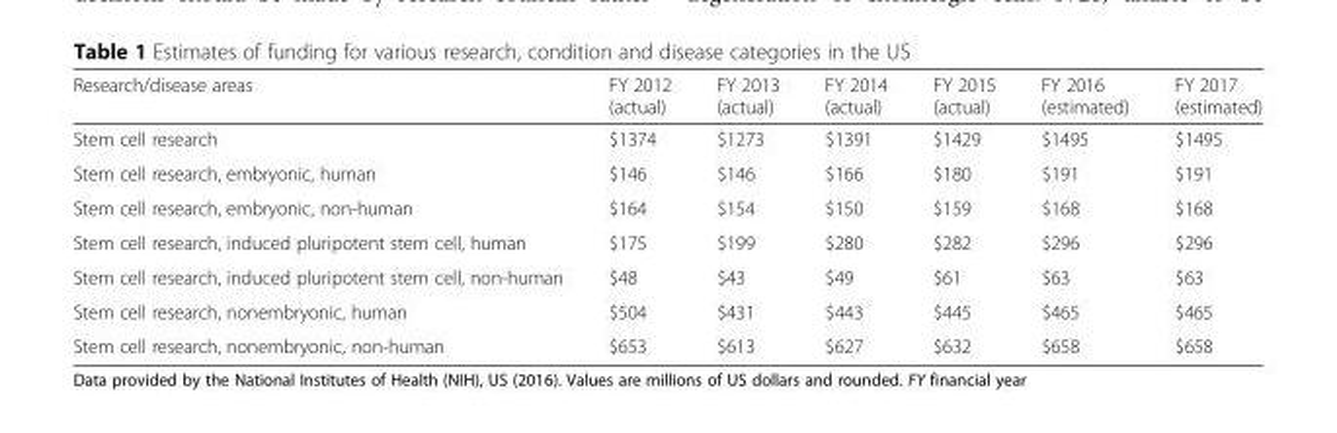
<table><thead><tr><td>Research/disease areas</td><td>FY 2012 (actual)</td><td>FY 2013 (actual)</td><td>FY 2014 (actual)</td><td>FY 2015 (actual)</td><td>FY 2016 (estimated)</td><td>FY 2017 (estimated)</td></tr></thead><tbody><tr><td>Stem cell research</td><td>$1374</td><td>$1273</td><td>$1391</td><td>$1429</td><td>$1495</td><td>$1495</td></tr><tr><td>Stem cell research, embryonic, human</td><td>$146</td><td>$146</td><td>$166</td><td>$180</td><td>$191</td><td>$191</td></tr><tr><td>Stem cell research, embryonic, non-human</td><td>$164</td><td>$154</td><td>$150</td><td>$159</td><td>$168</td><td>$168</td></tr><tr><td>Stem cell research, induced pluripotent stem cell, human</td><td>$175</td><td>$199</td><td>$280</td><td>$282</td><td>$296</td><td>$296</td></tr><tr><td>Stem cell research, induced pluripotent stem cell, non-human</td><td>$48</td><td>$43</td><td>$49</td><td>$61</td><td>$63</td><td>$63</td></tr><tr><td>Stem cell research, nonembryonic, human</td><td>$504</td><td>$431</td><td>$443</td><td>$445</td><td>$465</td><td>$465</td></tr><tr><td>Stem cell research, nonembryonic, non-human</td><td>$653</td><td>$613</td><td>$627</td><td>$632</td><td>$658</td><td>$658</td></tr></tbody></table>